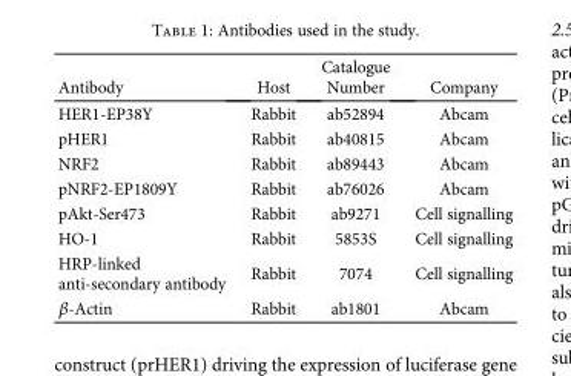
<table><thead><tr><td rowspan="2">Antibody</td><td rowspan="2">Host</td><td rowspan="2">Catalogue Number</td><td rowspan="2">Company</td></tr><tr></tr></thead><tbody><tr><td>HER1-EP38Y</td><td>Rabbit</td><td>ab52894</td><td>Abcam</td></tr><tr><td>pHER1</td><td>Rabbit</td><td>ab40815</td><td>Abcam</td></tr><tr><td>NRF2</td><td>Rabbit</td><td>ab89443</td><td>Abcam</td></tr><tr><td>pNRF2-EP1809Y</td><td>Rabbit</td><td>ab76026</td><td>Abcam</td></tr><tr><td>pAkt-Ser473</td><td>Rabbit</td><td>ab9271</td><td>Cell signalling</td></tr><tr><td>HO-1</td><td>Rabbit</td><td>5853S</td><td>Cell signalling</td></tr><tr><td>HRP-linked anti-secondary antibody</td><td>Rabbit</td><td>7074</td><td>Cell signalling</td></tr><tr><td>β-Actin</td><td>Rabbit</td><td>ab1801</td><td>Abcam</td></tr></tbody></table>